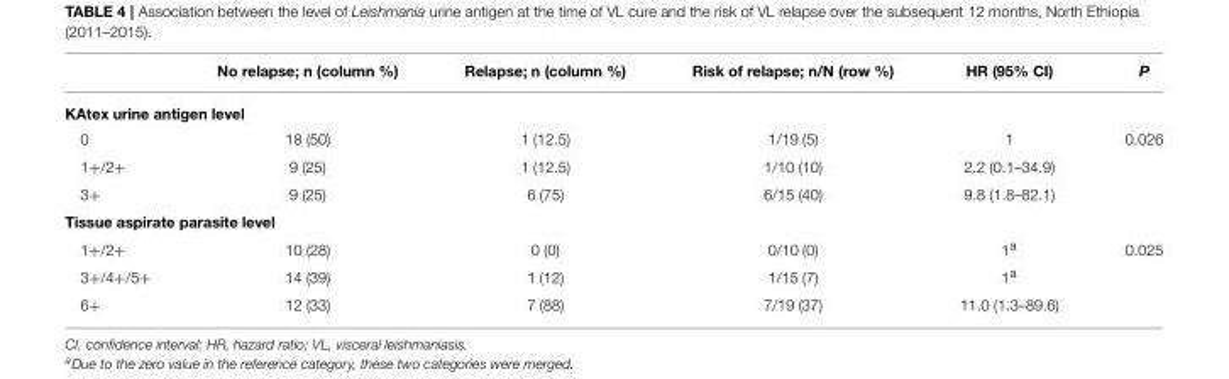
<table><thead><tr><td></td><td>No relapse; n (column %)</td><td>Relapse; n (column %)</td><td>Risk of relapse; n/N (row %)</td><td>HR (95% CI)</td><td>P</td></tr></thead><tbody><tr><td colspan="6">KAtex urine antigen level</td></tr><tr><td>0</td><td>18 (50)</td><td>1 (12.5)</td><td>1/19 (5)</td><td>1</td><td>0.026</td></tr><tr><td>1+/2+</td><td>9 (25)</td><td>1 (12.5)</td><td>1/10 (10)</td><td>2.2 (0.1–34.9)</td><td></td></tr><tr><td>3+</td><td>9 (25)</td><td>6 (75)</td><td>6/15 (40)</td><td>9.8 (1.8–82.1)</td><td></td></tr><tr><td colspan="6">Tissue aspirate parasite level</td></tr><tr><td>1+/2+</td><td>10 (28)</td><td>0 (0)</td><td>0/10 (0)</td><td>1<sup>a</sup></td><td>0.025</td></tr><tr><td>3+/4+/5+</td><td>14 (39)</td><td>1 (12)</td><td>1/15 (7)</td><td>1<sup>a</sup></td><td></td></tr><tr><td>6+</td><td>12 (33)</td><td>7 (88)</td><td>7/19 (37)</td><td>11.0 (1.3–89.6)</td><td></td></tr></tbody></table>